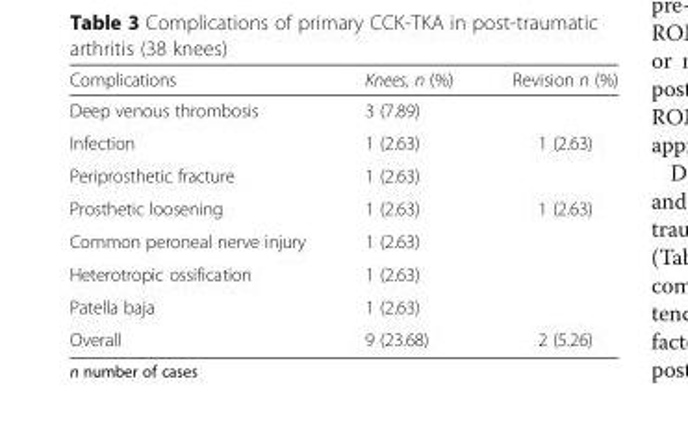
<table><thead><tr><td>Complications</td><td>Knees, n (%)</td><td>Revision n (%)</td></tr></thead><tbody><tr><td>Deep venous thrombosis</td><td>3 (7.89)</td><td></td></tr><tr><td>Infection</td><td>1 (2.63)</td><td>1 (2.63)</td></tr><tr><td>Periprosthetic fracture</td><td>1 (2.63)</td><td></td></tr><tr><td>Prosthetic loosening</td><td>1 (2.63)</td><td>1 (2.63)</td></tr><tr><td>Common peroneal nerve injury</td><td>1 (2.63)</td><td></td></tr><tr><td>Heterotropic ossification</td><td>1 (2.63)</td><td></td></tr><tr><td>Patella baja</td><td>1 (2.63)</td><td></td></tr><tr><td>Overall</td><td>9 (23.68)</td><td>2 (5.26)</td></tr></tbody></table>